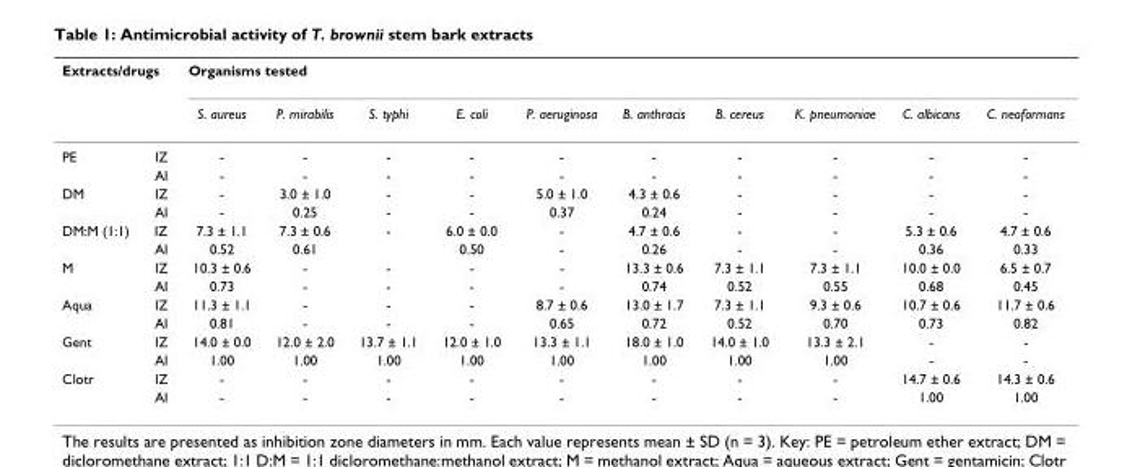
<table><thead><tr><td colspan="2">Extracts/drugs</td><td colspan="10">Organisms tested</td></tr><tr><td></td><td></td><td>S. aureus</td><td>P. mirabilis</td><td>S. typhi</td><td>E. coli</td><td>P. aeruginosa</td><td>B. anthracis</td><td>B. cereus</td><td>K. pneumoniae</td><td>C. albicans</td><td>C. neoformans</td></tr></thead><tbody><tr><td rowspan="2">PE</td><td>IZ</td><td>-</td><td>-</td><td>-</td><td>-</td><td>-</td><td>-</td><td>-</td><td>-</td><td>-</td><td>-</td></tr><tr><td>AI</td><td>-</td><td>-</td><td>-</td><td>-</td><td>-</td><td>-</td><td>-</td><td>-</td><td>-</td><td>-</td></tr><tr><td rowspan="2">DM</td><td>IZ</td><td>-</td><td>3.0 ± 1.0</td><td>-</td><td>-</td><td>5.0 ± 1.0</td><td>4.3 ± 0.6</td><td>-</td><td>-</td><td>-</td><td>-</td></tr><tr><td>AI</td><td>-</td><td>0.25</td><td>-</td><td>-</td><td>0.37</td><td>0.24</td><td>-</td><td>-</td><td>-</td><td>-</td></tr><tr><td rowspan="2">DM:M (1:1)</td><td>IZ</td><td>7.3 ± 1.1</td><td>7.3 ± 0.6</td><td>-</td><td>6.0 ± 0.0</td><td>-</td><td>4.7 ± 0.6</td><td>-</td><td>-</td><td>5.3 ± 0.6</td><td>4.7 ± 0.6</td></tr><tr><td>AI</td><td>0.52</td><td>0.61</td><td></td><td>0.50</td><td>-</td><td>0.26</td><td>-</td><td>-</td><td>0.36</td><td>0.33</td></tr><tr><td rowspan="2">M</td><td>IZ</td><td>10.3 ± 0.6</td><td>-</td><td>-</td><td>-</td><td>-</td><td>13.3 ± 0.6</td><td>7.3 ± 1.1</td><td>7.3 ± 1.1</td><td>10.0 ± 0.0</td><td>6.5 ± 0.7</td></tr><tr><td>AI</td><td>0.73</td><td>-</td><td>-</td><td>-</td><td>-</td><td>0.74</td><td>0.52</td><td>0.55</td><td>0.68</td><td>0.45</td></tr><tr><td rowspan="2">Aqua</td><td>IZ</td><td>11.3 ± 1.1</td><td>-</td><td>-</td><td>-</td><td>8.7 ± 0.6</td><td>13.0 ± 1.7</td><td>7.3 ± 1.1</td><td>9.3 ± 0.6</td><td>10.7 ± 0.6</td><td>11.7 ± 0.6</td></tr><tr><td>AI</td><td>0.81</td><td>-</td><td>-</td><td>-</td><td>0.65</td><td>0.72</td><td>0.52</td><td>0.70</td><td>0.73</td><td>0.82</td></tr><tr><td rowspan="2">Gent</td><td>IZ</td><td>14.0 ± 0.0</td><td>12.0 ± 2.0</td><td>13.7 ± 1.1</td><td>12.0 ± 1.0</td><td>13.3 ± 1.1</td><td>18.0 ± 1.0</td><td>14.0 ± 1.0</td><td>13.3 ± 2.1</td><td>-</td><td>-</td></tr><tr><td>AI</td><td>1.00</td><td>1.00</td><td>1.00</td><td>1.00</td><td>1.00</td><td>1.00</td><td>1.00</td><td>1.00</td><td>-</td><td>-</td></tr><tr><td rowspan="2">Clotr</td><td>IZ</td><td>-</td><td>-</td><td>-</td><td>-</td><td>-</td><td>-</td><td>-</td><td>-</td><td>14.7 ± 0.6</td><td>14.3 ± 0.6</td></tr><tr><td>AI</td><td>-</td><td>-</td><td>-</td><td>-</td><td>-</td><td>-</td><td>-</td><td>-</td><td>1.00</td><td>1.00</td></tr></tbody></table>